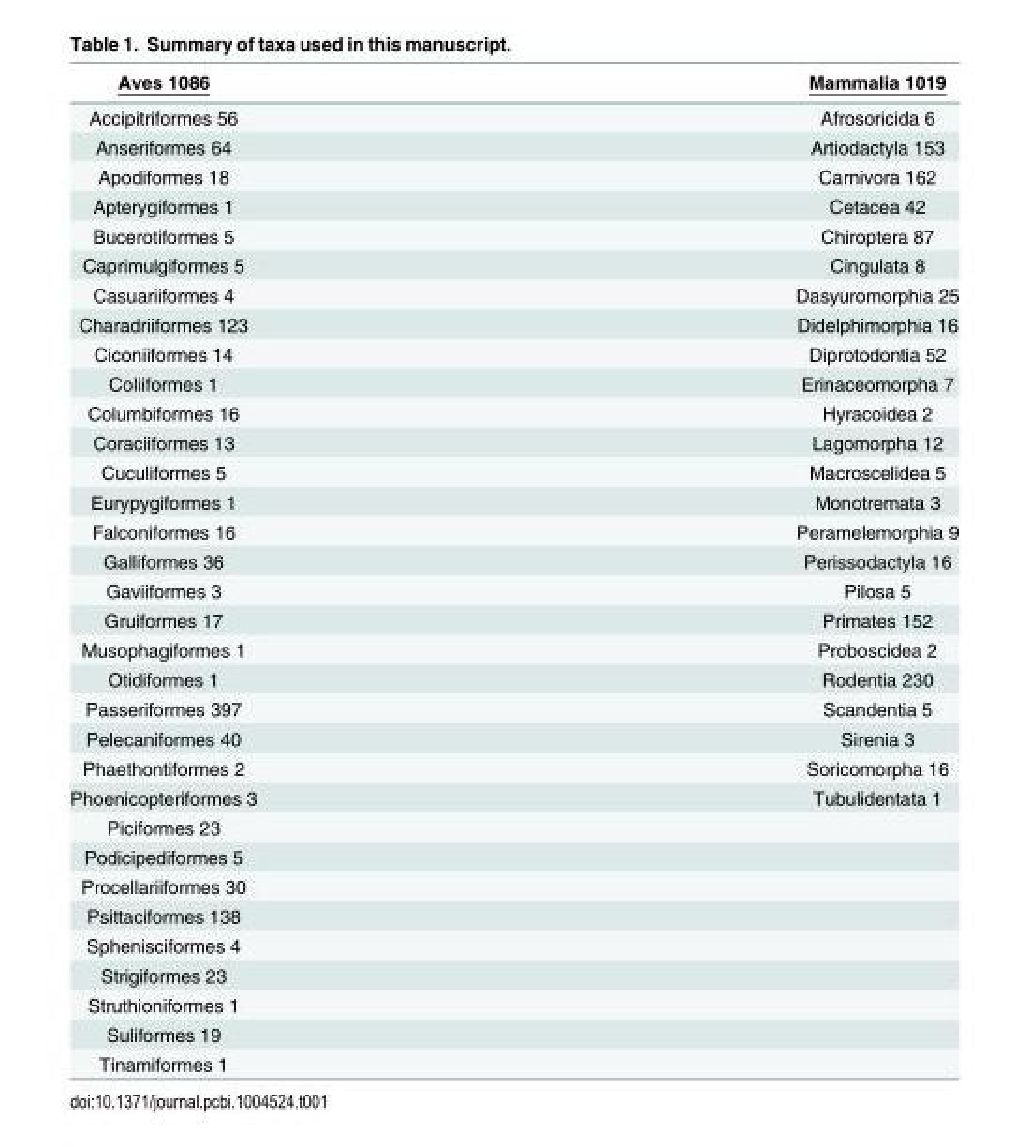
<table><thead><tr><td>Aves 1086</td><td>Mammalia 1019</td></tr></thead><tbody><tr><td>Accipitriformes 56</td><td>Afrosoricida 6</td></tr><tr><td>Anseriformes 64</td><td>Artiodactyla 153</td></tr><tr><td>Apodiformes 18</td><td>Carnivora 162</td></tr><tr><td>Apterygiformes 1</td><td>Cetacea 42</td></tr><tr><td>Bucerotiformes 5</td><td>Chiroptera 87</td></tr><tr><td>Caprimulgiformes 5</td><td>Cingulata 8</td></tr><tr><td>Casuariiformes 4</td><td>Dasyuromorphia 25</td></tr><tr><td>Charadriiformes 123</td><td>Didelphimorphia 16</td></tr><tr><td>Ciconiiformes 14</td><td>Diprotodontia 52</td></tr><tr><td>Coliiformes 1</td><td>Erinaceomorpha 7</td></tr><tr><td>Columbiformes 16</td><td>Hyracoidea 2</td></tr><tr><td>Coraciiformes 13</td><td>Lagomorpha 12</td></tr><tr><td>Cuculiformes 5</td><td>Macroscelidea 5</td></tr><tr><td>Eurypygiformes 1</td><td>Monotremata 3</td></tr><tr><td>Falconiformes 16</td><td>Peramelemorphia 9</td></tr><tr><td>Galliformes 36</td><td>Perissodactyla 16</td></tr><tr><td>Gaviiformes 3</td><td>Pilosa 5</td></tr><tr><td>Gruiformes 17</td><td>Primates 152</td></tr><tr><td>Musophagiformes 1</td><td>Proboscidea 2</td></tr><tr><td>Otidiformes 1</td><td>Rodentia 230</td></tr><tr><td>Passeriformes 397</td><td>Scandentia 5</td></tr><tr><td>Pelecaniformes 40</td><td>Sirenia 3</td></tr><tr><td>Phaethontiformes 2</td><td>Soricomorpha 16</td></tr><tr><td>Phoenicopteriformes 3</td><td>Tubulidentata 1</td></tr><tr><td colspan="2">Piciformes 23</td></tr><tr><td colspan="2">Podicipediformes 5</td></tr><tr><td colspan="2">Procellariiformes 30</td></tr><tr><td colspan="2">Psittaciformes 138</td></tr><tr><td colspan="2">Sphenisciformes 4</td></tr><tr><td colspan="2">Strigiformes 23</td></tr><tr><td colspan="2">Struthioniformes 1</td></tr><tr><td colspan="2">Suliformes 19</td></tr><tr><td>Tinamiformes 1</td><td></td></tr></tbody></table>